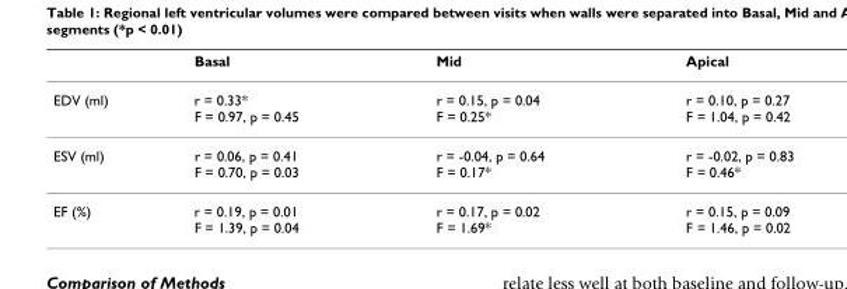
<table><thead><tr><td></td><td>Basal</td><td>Mid</td><td>Apical</td></tr></thead><tbody><tr><td>EDV (ml)</td><td>r = 0.33* F = 0.97, p = 0.45</td><td>r = 0.15, p = 0.04 F = 0.25*</td><td>r = 0.10, p = 0.27 F = 1.04, p = 0.42</td></tr><tr><td>ESV (ml)</td><td>r = 0.06, p = 0.41 F = 0.70, p = 0.03</td><td>r = -0.04, p = 0.64 F = 0.17*</td><td>r = -0.02, p = 0.83 F = 0.46*</td></tr><tr><td>EF (%)</td><td>r = 0.19, p = 0.01 F = 1.39, p = 0.04</td><td>r = 0.17, p = 0.02 F = 1.69*</td><td>r = 0.15, p = 0.09 F = 1.46, p = 0.02</td></tr></tbody></table>